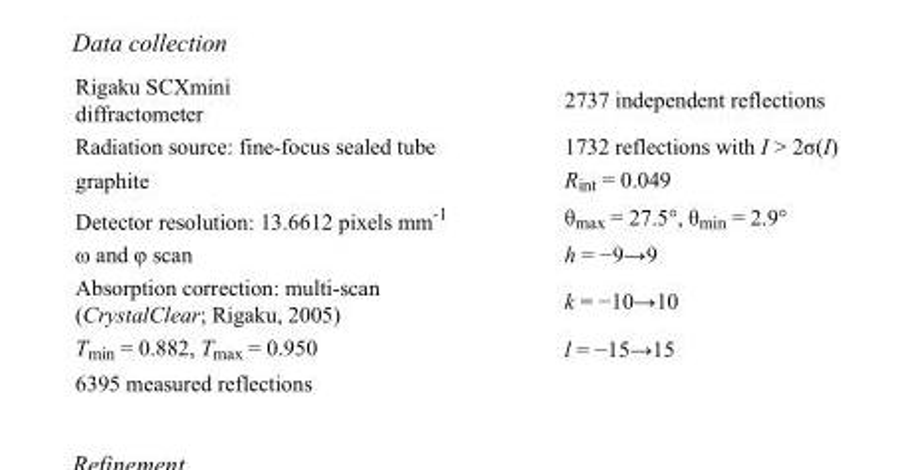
<table><tbody><tr><td>Rigaku SCXmini diffractometer</td><td>2737 independent reflections</td></tr><tr><td>Radiation source: fine-focus sealed tube</td><td>1732 reflections with I &gt; 2σ(I)</td></tr><tr><td>graphite</td><td>R<sub>int</sub> = 0.049</td></tr><tr><td>Detector resolution: 13.6612 pixels mm<sup>-1</sup></td><td>θ<sub>max</sub> = 27.5°, θ<sub>min</sub> = 2.9°</td></tr><tr><td>ω and φ scan</td><td>h = −9→9</td></tr><tr><td>Absorption correction: multi-scan (CrystalClear; Rigaku, 2005)</td><td>k = −10→10</td></tr><tr><td>T<sub>min</sub> = 0.882, T<sub>max</sub> = 0.950</td><td>l = −15→15</td></tr><tr><td>6395 measured reflections</td><td></td></tr></tbody></table>